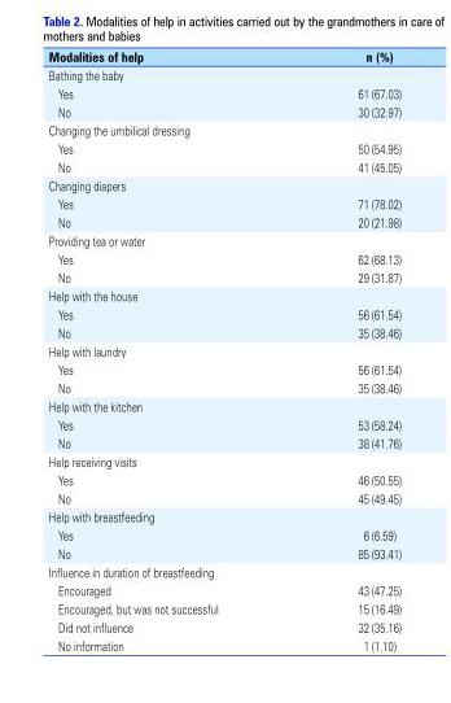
<table><thead><tr><td>Modalities of help</td><td>n (%)</td></tr></thead><tbody><tr><td colspan="2">Bathing the baby</td></tr><tr><td>Yes</td><td>61 (67.03)</td></tr><tr><td>No</td><td>30 (32.97)</td></tr><tr><td colspan="2">Changing the umbilical dressing</td></tr><tr><td>Yes</td><td>50 (54.95)</td></tr><tr><td>No</td><td>41 (45.05)</td></tr><tr><td colspan="2">Changing diapers</td></tr><tr><td>Yes</td><td>71 (78.02)</td></tr><tr><td>No</td><td>20 (21.98)</td></tr><tr><td colspan="2">Providing tea or water</td></tr><tr><td>Yes</td><td>62 (68.13)</td></tr><tr><td>No</td><td>29 (31.87)</td></tr><tr><td colspan="2">Help with the house</td></tr><tr><td>Yes</td><td>56 (61.54)</td></tr><tr><td>No</td><td>35 (38.46)</td></tr><tr><td colspan="2">Help with laundry</td></tr><tr><td>Yes</td><td>56 (61.54)</td></tr><tr><td>No</td><td>35 (38.46)</td></tr><tr><td colspan="2">Help with the kitchen</td></tr><tr><td>Yes</td><td>53 (58.24)</td></tr><tr><td>No</td><td>38 (41.76)</td></tr><tr><td colspan="2">Help receiving visits</td></tr><tr><td>Yes</td><td>46 (50.55)</td></tr><tr><td>No</td><td>45 (49.45)</td></tr><tr><td colspan="2">Help with breastfeeding</td></tr><tr><td>Yes</td><td>6 (6.59)</td></tr><tr><td>No</td><td>85 (93.41)</td></tr><tr><td colspan="2">Influence in duration of breastfeeding</td></tr><tr><td>Encouraged</td><td>43 (47.25)</td></tr><tr><td>Encouraged, but was not successful</td><td>15 (16.49)</td></tr><tr><td>Did not influence</td><td>32 (35.16)</td></tr><tr><td>No information</td><td>1 (1.10)</td></tr></tbody></table>